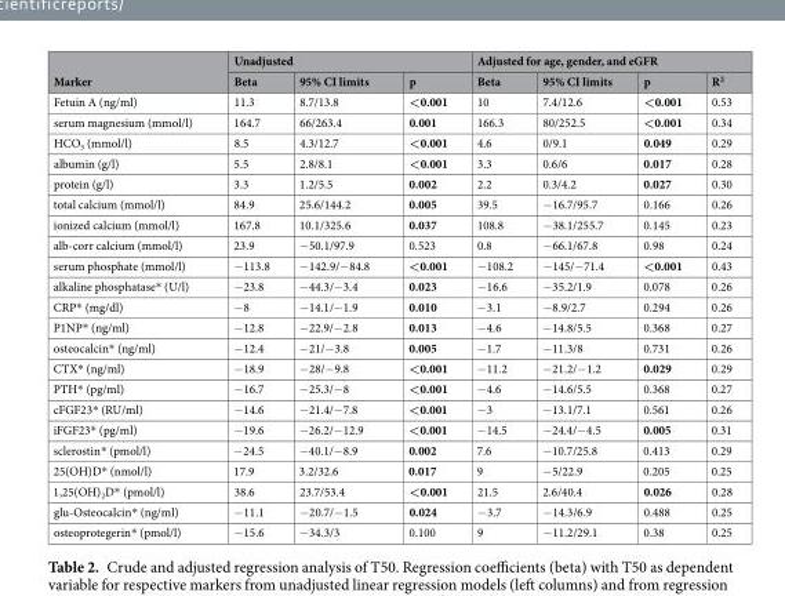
<table><thead><tr><td rowspan="2">Marker</td><td colspan="3">Unadjusted</td><td colspan="4">Adjusted for age, gender, and eGFR</td></tr><tr><td>Beta</td><td>95% CI limits</td><td>p</td><td>Beta</td><td>95% CI limits</td><td>p</td><td>R<sup>2</sup></td></tr></thead><tbody><tr><td>Fetuin A (ng/ml)</td><td>11.3</td><td>8.7/13.8</td><td>&lt;0.001</td><td>10</td><td>7.4/12.6</td><td>&lt;0.001</td><td>0.53</td></tr><tr><td>serum magnesium (mmol/l)</td><td>164.7</td><td>66/263.4</td><td>0.001</td><td>166.3</td><td>80/252.5</td><td>&lt;0.001</td><td>0.34</td></tr><tr><td>HCO<sub>3</sub> (mmol/l)</td><td>8.5</td><td>4.3/12.7</td><td>&lt;0.001</td><td>4.6</td><td>0/9.1</td><td>0.049</td><td>0.29</td></tr><tr><td>albumin (g/l)</td><td>5.5</td><td>2.8/8.1</td><td>&lt;0.001</td><td>3.3</td><td>0.6/6</td><td>0.017</td><td>0.28</td></tr><tr><td>protein (g/l)</td><td>3.3</td><td>1.2/5.5</td><td>0.002</td><td>2.2</td><td>0.3/4.2</td><td>0.027</td><td>0.30</td></tr><tr><td>total calcium (mmol/l)</td><td>84.9</td><td>25.6/144.2</td><td>0.005</td><td>39.5</td><td>−16.7/95.7</td><td>0.166</td><td>0.26</td></tr><tr><td>ionized calcium (mmol/l)</td><td>167.8</td><td>10.1/325.6</td><td>0.037</td><td>108.8</td><td>−38.1/255.7</td><td>0.145</td><td>0.23</td></tr><tr><td>alb-corr calcium (mmol/l)</td><td>23.9</td><td>−50.1/97.9</td><td>0.523</td><td>0.8</td><td>−66.1/67.8</td><td>0.98</td><td>0.24</td></tr><tr><td>serum phosphate (mmol/l)</td><td>−113.8</td><td>−142.9/−84.8</td><td>&lt;0.001</td><td>−108.2</td><td>−145/−71.4</td><td>&lt;0.001</td><td>0.43</td></tr><tr><td>alkaline phosphatase* (U/l)</td><td>−23.8</td><td>−44.3/−3.4</td><td>0.023</td><td>−16.6</td><td>−35.2/1.9</td><td>0.078</td><td>0.26</td></tr><tr><td>CRP* (mg/dl)</td><td>−8</td><td>−14.1/−1.9</td><td>0.010</td><td>−3.1</td><td>−8.9/2.7</td><td>0.294</td><td>0.26</td></tr><tr><td>P1NP* (ng/ml)</td><td>−12.8</td><td>−22.9/−2.8</td><td>0.013</td><td>−4.6</td><td>−14.8/5.5</td><td>0.368</td><td>0.27</td></tr><tr><td>osteocalcin* (ng/ml)</td><td>−12.4</td><td>−21/−3.8</td><td>0.005</td><td>−1.7</td><td>−11.3/8</td><td>0.731</td><td>0.26</td></tr><tr><td>CTX* (ng/ml)</td><td>−18.9</td><td>−28/−9.8</td><td>&lt;0.001</td><td>−11.2</td><td>−21.2/−1.2</td><td>0.029</td><td>0.29</td></tr><tr><td>PTH* (pg/ml)</td><td>−16.7</td><td>−25.3/−8</td><td>&lt;0.001</td><td>−4.6</td><td>−14.6/5.5</td><td>0.368</td><td>0.27</td></tr><tr><td>cFGF23* (RU/ml)</td><td>−14.6</td><td>−21.4/−7.8</td><td>&lt;0.001</td><td>−3</td><td>−13.1/7.1</td><td>0.561</td><td>0.26</td></tr><tr><td>iFGF23* (pg/ml)</td><td>−19.6</td><td>−26.2/−12.9</td><td>&lt;0.001</td><td>−14.5</td><td>−24.4/−4.5</td><td>0.005</td><td>0.31</td></tr><tr><td>sclerostin* (pmol/l)</td><td>−24.5</td><td>−40.1/−8.9</td><td>0.002</td><td>7.6</td><td>−10.7/25.8</td><td>0.413</td><td>0.29</td></tr><tr><td>25(OH)D* (nmol/l)</td><td>17.9</td><td>3.2/32.6</td><td>0.017</td><td>9</td><td>−5/22.9</td><td>0.205</td><td>0.25</td></tr><tr><td>1,25(OH)<sub>2</sub>D* (pmol/l)</td><td>38.6</td><td>23.7/53.4</td><td>&lt;0.001</td><td>21.5</td><td>2.6/40.4</td><td>0.026</td><td>0.28</td></tr><tr><td>glu-Osteocalcin* (ng/ml)</td><td>−11.1</td><td>−20.7/−1.5</td><td>0.024</td><td>−3.7</td><td>−14.3/6.9</td><td>0.488</td><td>0.25</td></tr><tr><td>osteoprotegerin* (pmol/l)</td><td>−15.6</td><td>−34.3/3</td><td>0.100</td><td>9</td><td>−11.2/29.1</td><td>0.38</td><td>0.25</td></tr></tbody></table>